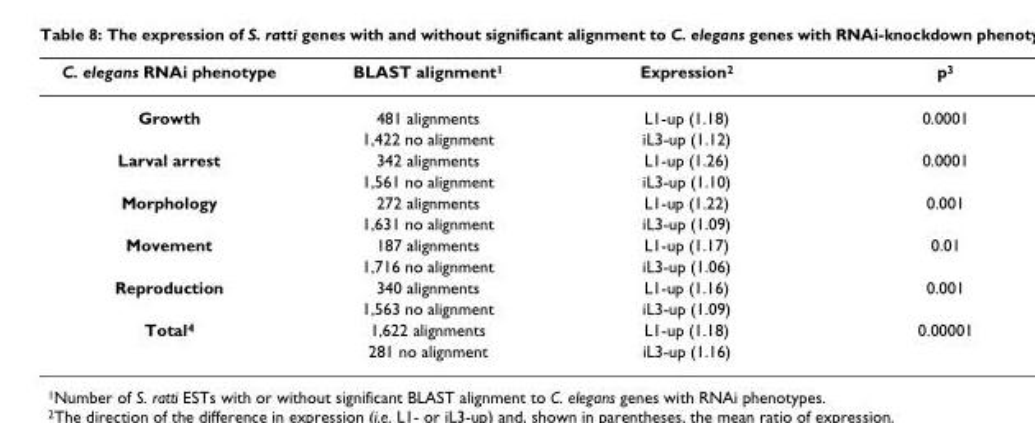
<table><thead><tr><td>C. elegans RNAi phenotype</td><td>BLAST alignment1</td><td>Expression2</td><td>p3</td></tr></thead><tbody><tr><td rowspan="2">Growth</td><td>481 alignments</td><td>L1-up (1.18)</td><td>0.0001</td></tr><tr><td>1,422 no alignment</td><td>iL3-up (1.12)</td><td></td></tr><tr><td rowspan="2">Larval arrest</td><td>342 alignments</td><td>L1-up (1.26)</td><td>0.0001</td></tr><tr><td>1,561 no alignment</td><td>iL3-up (1.10)</td><td></td></tr><tr><td rowspan="2">Morphology</td><td>272 alignments</td><td>L1-up (1.22)</td><td>0.001</td></tr><tr><td>1,631 no alignment</td><td>iL3-up (1.09)</td><td></td></tr><tr><td rowspan="2">Movement</td><td>187 alignments</td><td>L1-up (1.17)</td><td>0.01</td></tr><tr><td>1,716 no alignment</td><td>iL3-up (1.06)</td><td></td></tr><tr><td rowspan="2">Reproduction</td><td>340 alignments</td><td>L1-up (1.16)</td><td>0.001</td></tr><tr><td>1,563 no alignment</td><td>iL3-up (1.09)</td><td></td></tr><tr><td rowspan="2">Total4</td><td>1,622 alignments</td><td>L1-up (1.18)</td><td>0.00001</td></tr><tr><td>281 no alignment</td><td>iL3-up (1.16)</td><td></td></tr></tbody></table>